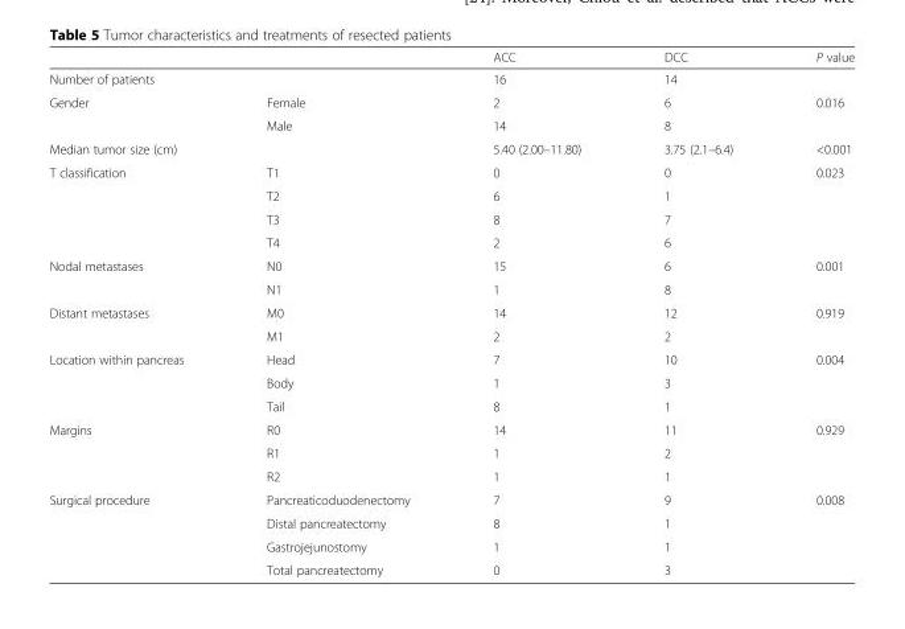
<table><thead><tr><td></td><td></td><td>ACC</td><td>DCC</td><td>P value</td></tr></thead><tbody><tr><td>Number of patients</td><td></td><td>16</td><td>14</td><td></td></tr><tr><td rowspan="2">Gender</td><td>Female</td><td>2</td><td>6</td><td>0.016</td></tr><tr><td>Male</td><td>14</td><td>8</td><td></td></tr><tr><td>Median tumor size (cm)</td><td></td><td>5.40 (2.00–11.80)</td><td>3.75 (2.1–6.4)</td><td>&lt;0.001</td></tr><tr><td rowspan="4">T classification</td><td>T1</td><td>0</td><td>0</td><td>0.023</td></tr><tr><td>T2</td><td>6</td><td>1</td><td></td></tr><tr><td>T3</td><td>8</td><td>7</td><td></td></tr><tr><td>T4</td><td>2</td><td>6</td><td></td></tr><tr><td rowspan="2">Nodal metastases</td><td>N0</td><td>15</td><td>6</td><td>0.001</td></tr><tr><td>N1</td><td>1</td><td>8</td><td></td></tr><tr><td rowspan="2">Distant metastases</td><td>M0</td><td>14</td><td>12</td><td>0.919</td></tr><tr><td>M1</td><td>2</td><td>2</td><td></td></tr><tr><td rowspan="3">Location within pancreas</td><td>Head</td><td>7</td><td>10</td><td>0.004</td></tr><tr><td>Body</td><td>1</td><td>3</td><td></td></tr><tr><td>Tail</td><td>8</td><td>1</td><td></td></tr><tr><td rowspan="3">Margins</td><td>R0</td><td>14</td><td>11</td><td>0.929</td></tr><tr><td>R1</td><td>1</td><td>2</td><td></td></tr><tr><td>R2</td><td>1</td><td>1</td><td></td></tr><tr><td rowspan="4">Surgical procedure</td><td>Pancreaticoduodenectomy</td><td>7</td><td>9</td><td>0.008</td></tr><tr><td>Distal pancreatectomy</td><td>8</td><td>1</td><td></td></tr><tr><td>Gastrojejunostomy</td><td>1</td><td>1</td><td></td></tr><tr><td>Total pancreatectomy</td><td>0</td><td>3</td><td></td></tr></tbody></table>